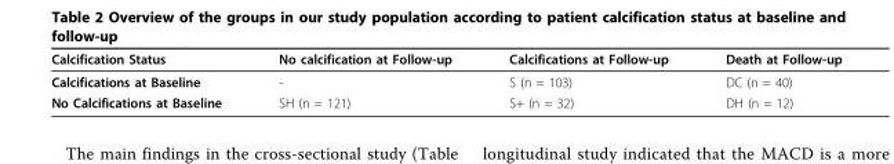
<table><thead><tr><td>Calcification Status</td><td>No calcification at Follow-up</td><td>Calcifications at Follow-up</td><td>Death at Follow-up</td></tr></thead><tbody><tr><td>Calcifications at Baseline</td><td>-</td><td>S (n = 103)</td><td>DC (n = 40)</td></tr><tr><td>No Calcifications at Baseline</td><td>SH (n = 121)</td><td>S+ (n = 32)</td><td>DH (n = 12)</td></tr></tbody></table>